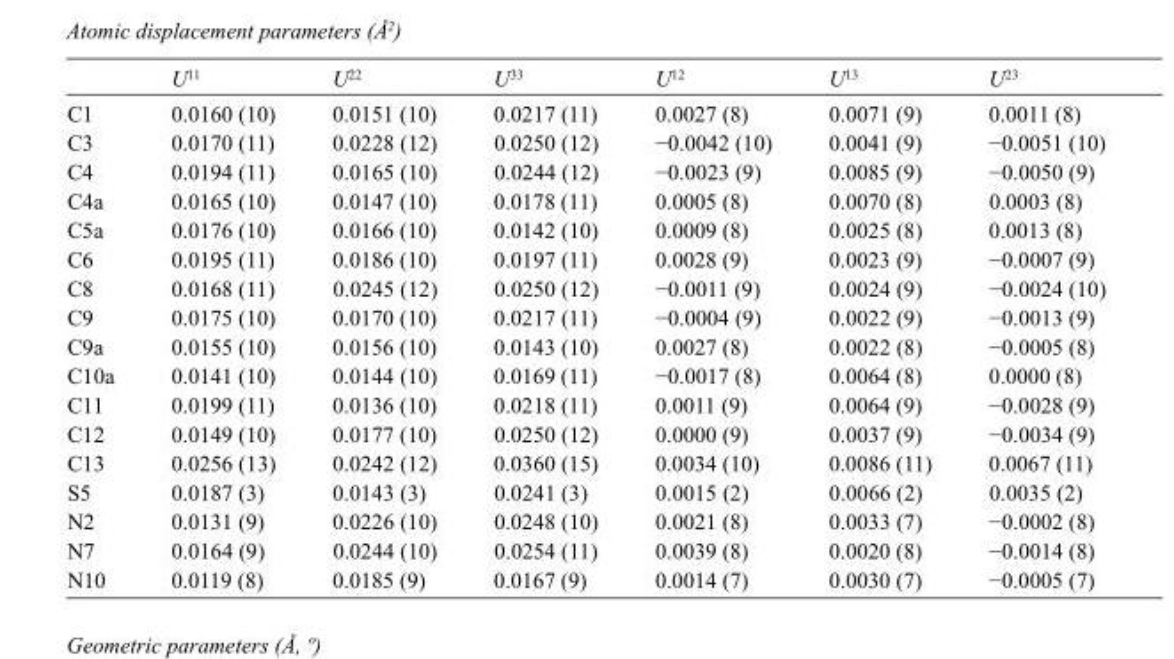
<table><thead><tr><td></td><td>U<sup>11</sup></td><td>U<sup>22</sup></td><td>U<sup>33</sup></td><td>U<sup>12</sup></td><td>U<sup>13</sup></td><td>U<sup>23</sup></td></tr></thead><tbody><tr><td>C1</td><td>0.0160 (10)</td><td>0.0151 (10)</td><td>0.0217 (11)</td><td>0.0027 (8)</td><td>0.0071 (9)</td><td>0.0011 (8)</td></tr><tr><td>C3</td><td>0.0170 (11)</td><td>0.0228 (12)</td><td>0.0250 (12)</td><td>−0.0042 (10)</td><td>0.0041 (9)</td><td>−0.0051 (10)</td></tr><tr><td>C4</td><td>0.0194 (11)</td><td>0.0165 (10)</td><td>0.0244 (12)</td><td>−0.0023 (9)</td><td>0.0085 (9)</td><td>−0.0050 (9)</td></tr><tr><td>C4a</td><td>0.0165 (10)</td><td>0.0147 (10)</td><td>0.0178 (11)</td><td>0.0005 (8)</td><td>0.0070 (8)</td><td>0.0003 (8)</td></tr><tr><td>C5a</td><td>0.0176 (10)</td><td>0.0166 (10)</td><td>0.0142 (10)</td><td>0.0009 (8)</td><td>0.0025 (8)</td><td>0.0013 (8)</td></tr><tr><td>C6</td><td>0.0195 (11)</td><td>0.0186 (10)</td><td>0.0197 (11)</td><td>0.0028 (9)</td><td>0.0023 (9)</td><td>−0.0007 (9)</td></tr><tr><td>C8</td><td>0.0168 (11)</td><td>0.0245 (12)</td><td>0.0250 (12)</td><td>−0.0011 (9)</td><td>0.0024 (9)</td><td>−0.0024 (10)</td></tr><tr><td>C9</td><td>0.0175 (10)</td><td>0.0170 (10)</td><td>0.0217 (11)</td><td>−0.0004 (9)</td><td>0.0022 (9)</td><td>−0.0013 (9)</td></tr><tr><td>C9a</td><td>0.0155 (10)</td><td>0.0156 (10)</td><td>0.0143 (10)</td><td>0.0027 (8)</td><td>0.0022 (8)</td><td>−0.0005 (8)</td></tr><tr><td>C10a</td><td>0.0141 (10)</td><td>0.0144 (10)</td><td>0.0169 (11)</td><td>−0.0017 (8)</td><td>0.0064 (8)</td><td>0.0000 (8)</td></tr><tr><td>C11</td><td>0.0199 (11)</td><td>0.0136 (10)</td><td>0.0218 (11)</td><td>0.0011 (9)</td><td>0.0064 (9)</td><td>−0.0028 (9)</td></tr><tr><td>C12</td><td>0.0149 (10)</td><td>0.0177 (10)</td><td>0.0250 (12)</td><td>0.0000 (9)</td><td>0.0037 (9)</td><td>−0.0034 (9)</td></tr><tr><td>C13</td><td>0.0256 (13)</td><td>0.0242 (12)</td><td>0.0360 (15)</td><td>0.0034 (10)</td><td>0.0086 (11)</td><td>0.0067 (11)</td></tr><tr><td>S5</td><td>0.0187 (3)</td><td>0.0143 (3)</td><td>0.0241 (3)</td><td>0.0015 (2)</td><td>0.0066 (2)</td><td>0.0035 (2)</td></tr><tr><td>N2</td><td>0.0131 (9)</td><td>0.0226 (10)</td><td>0.0248 (10)</td><td>0.0021 (8)</td><td>0.0033 (7)</td><td>−0.0002 (8)</td></tr><tr><td>N7</td><td>0.0164 (9)</td><td>0.0244 (10)</td><td>0.0254 (11)</td><td>0.0039 (8)</td><td>0.0020 (8)</td><td>−0.0014 (8)</td></tr><tr><td>N10</td><td>0.0119 (8)</td><td>0.0185 (9)</td><td>0.0167 (9)</td><td>0.0014 (7)</td><td>0.0030 (7)</td><td>−0.0005 (7)</td></tr></tbody></table>